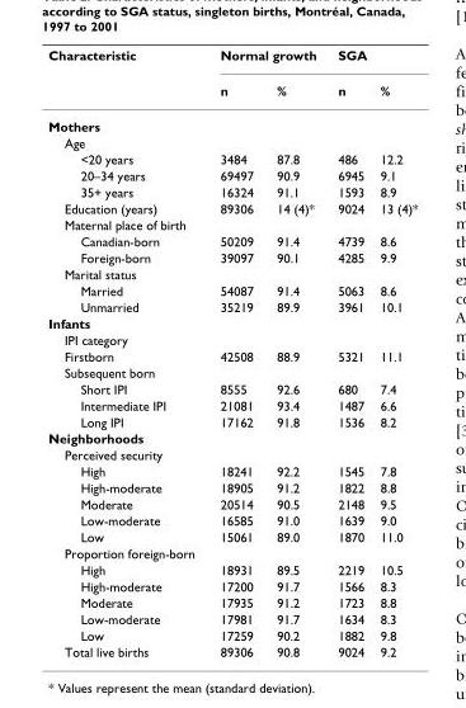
<table><thead><tr><td rowspan="2">Characteristic</td><td colspan="2">Normal growth</td><td colspan="2">SGA</td></tr><tr><td>n</td><td>%</td><td>n</td><td>%</td></tr></thead><tbody><tr><td colspan="5">Mothers</td></tr><tr><td colspan="5">Age</td></tr><tr><td>&lt;20 years</td><td>3484</td><td>87.8</td><td>486</td><td>12.2</td></tr><tr><td>20–34 years</td><td>69497</td><td>90.9</td><td>6945</td><td>9.1</td></tr><tr><td>35+ years</td><td>16324</td><td>91.1</td><td>1593</td><td>8.9</td></tr><tr><td>Education (years)</td><td>89306</td><td>14 (4)*</td><td>9024</td><td>13 (4)*</td></tr><tr><td colspan="5">Maternal place of birth</td></tr><tr><td>Canadian-born</td><td>50209</td><td>91.4</td><td>4739</td><td>8.6</td></tr><tr><td>Foreign-born</td><td>39097</td><td>90.1</td><td>4285</td><td>9.9</td></tr><tr><td colspan="5">Marital status</td></tr><tr><td>Married</td><td>54087</td><td>91.4</td><td>5063</td><td>8.6</td></tr><tr><td>Unmarried</td><td>35219</td><td>89.9</td><td>3961</td><td>10.1</td></tr><tr><td colspan="5">Infants</td></tr><tr><td colspan="5">IPI category</td></tr><tr><td>Firstborn</td><td>42508</td><td>88.9</td><td>5321</td><td>11.1</td></tr><tr><td colspan="5">Subsequent born</td></tr><tr><td>Short IPI</td><td>8555</td><td>92.6</td><td>680</td><td>7.4</td></tr><tr><td>Intermediate IPI</td><td>21081</td><td>93.4</td><td>1487</td><td>6.6</td></tr><tr><td>Long IPI</td><td>17162</td><td>91.8</td><td>1536</td><td>8.2</td></tr><tr><td colspan="5">Neighborhoods</td></tr><tr><td colspan="5">Perceived security</td></tr><tr><td>High</td><td>18241</td><td>92.2</td><td>1545</td><td>7.8</td></tr><tr><td>High-moderate</td><td>18905</td><td>91.2</td><td>1822</td><td>8.8</td></tr><tr><td>Moderate</td><td>20514</td><td>90.5</td><td>2148</td><td>9.5</td></tr><tr><td>Low-moderate</td><td>16585</td><td>91.0</td><td>1639</td><td>9.0</td></tr><tr><td>Low</td><td>15061</td><td>89.0</td><td>1870</td><td>11.0</td></tr><tr><td colspan="5">Proportion foreign-born</td></tr><tr><td>High</td><td>18931</td><td>89.5</td><td>2219</td><td>10.5</td></tr><tr><td>High-moderate</td><td>17200</td><td>91.7</td><td>1566</td><td>8.3</td></tr><tr><td>Moderate</td><td>17935</td><td>91.2</td><td>1723</td><td>8.8</td></tr><tr><td>Low-moderate</td><td>17981</td><td>91.7</td><td>1634</td><td>8.3</td></tr><tr><td>Low</td><td>17259</td><td>90.2</td><td>1882</td><td>9.8</td></tr><tr><td>Total live births</td><td>89306</td><td>90.8</td><td>9024</td><td>9.2</td></tr></tbody></table>